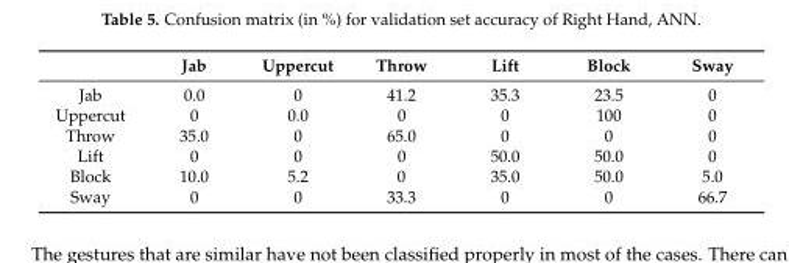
<table><thead><tr><td></td><td>Jab</td><td>Uppercut</td><td>Throw</td><td>Lift</td><td>Block</td><td>Sway</td></tr></thead><tbody><tr><td>Jab</td><td>0.0</td><td>0</td><td>41.2</td><td>35.3</td><td>23.5</td><td>0</td></tr><tr><td>Uppercut</td><td>0</td><td>0.0</td><td>0</td><td>0</td><td>100</td><td>0</td></tr><tr><td>Throw</td><td>35.0</td><td>0</td><td>65.0</td><td>0</td><td>0</td><td>0</td></tr><tr><td>Lift</td><td>0</td><td>0</td><td>0</td><td>50.0</td><td>50.0</td><td>0</td></tr><tr><td>Block</td><td>10.0</td><td>5.2</td><td>0</td><td>35.0</td><td>50.0</td><td>5.0</td></tr><tr><td>Sway</td><td>0</td><td>0</td><td>33.3</td><td>0</td><td>0</td><td>66.7</td></tr></tbody></table>